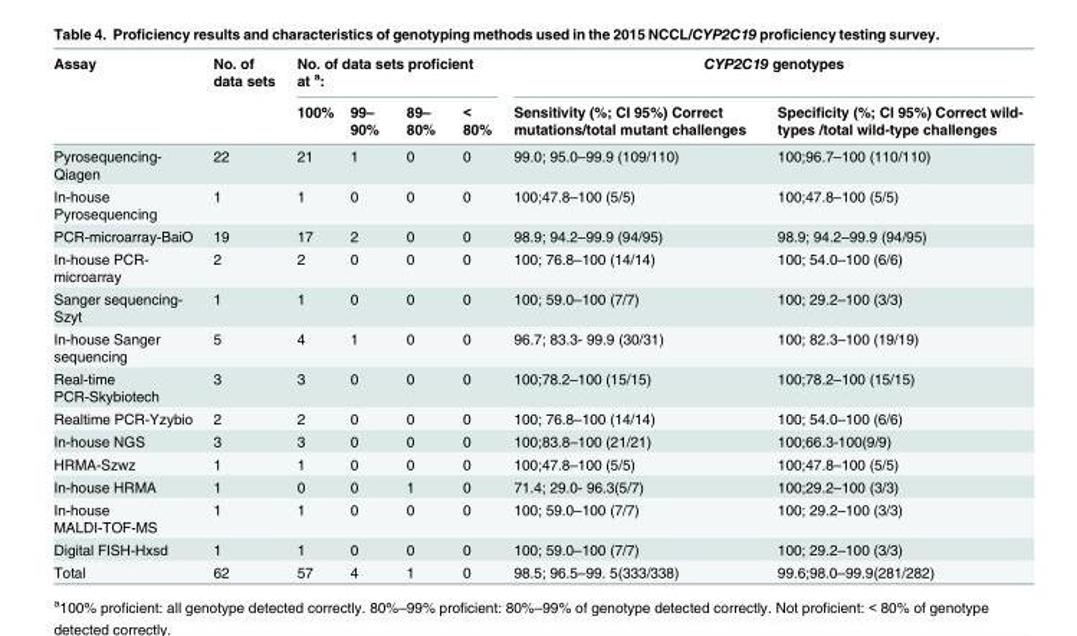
<table><thead><tr><td rowspan="2">Assay</td><td rowspan="2">No. of data sets</td><td colspan="4">No. of data sets proficient at <sup>a</sup>:</td><td colspan="2">CYP2C19 genotypes</td></tr><tr><td>100%</td><td>99– 90%</td><td>89– 80%</td><td>&lt; 80%</td><td>Sensitivity (%; CI 95%) Correct mutations/total mutant challenges</td><td>Specificity (%; CI 95%) Correct wild- types /total wild-type challenges</td></tr></thead><tbody><tr><td>Pyrosequencing- Qiagen</td><td>22</td><td>21</td><td>1</td><td>0</td><td>0</td><td>99.0; 95.0–99.9 (109/110)</td><td>100;96.7–100 (110/110)</td></tr><tr><td>In-house Pyrosequencing</td><td>1</td><td>1</td><td>0</td><td>0</td><td>0</td><td>100;47.8–100 (5/5)</td><td>100;47.8–100 (5/5)</td></tr><tr><td>PCR-microarray-BaiO</td><td>19</td><td>17</td><td>2</td><td>0</td><td>0</td><td>98.9; 94.2–99.9 (94/95)</td><td>98.9; 94.2–99.9 (94/95)</td></tr><tr><td>In-house PCR- microarray</td><td>2</td><td>2</td><td>0</td><td>0</td><td>0</td><td>100; 76.8–100 (14/14)</td><td>100; 54.0–100 (6/6)</td></tr><tr><td>Sanger sequencing- Szyt</td><td>1</td><td>1</td><td>0</td><td>0</td><td>0</td><td>100; 59.0–100 (7/7)</td><td>100; 29.2–100 (3/3)</td></tr><tr><td>In-house Sanger sequencing</td><td>5</td><td>4</td><td>1</td><td>0</td><td>0</td><td>96.7; 83.3- 99.9 (30/31)</td><td>100; 82.3–100 (19/19)</td></tr><tr><td>Real-time PCR-Skybiotech</td><td>3</td><td>3</td><td>0</td><td>0</td><td>0</td><td>100;78.2–100 (15/15)</td><td>100;78.2–100 (15/15)</td></tr><tr><td>Realtime PCR-Yzybio</td><td>2</td><td>2</td><td>0</td><td>0</td><td>0</td><td>100; 76.8–100 (14/14)</td><td>100; 54.0–100 (6/6)</td></tr><tr><td>In-house NGS</td><td>3</td><td>3</td><td>0</td><td>0</td><td>0</td><td>100;83.8–100 (21/21)</td><td>100;66.3-100(9/9)</td></tr><tr><td>HRMA-Szwz</td><td>1</td><td>1</td><td>0</td><td>0</td><td>0</td><td>100;47.8–100 (5/5)</td><td>100;47.8–100 (5/5)</td></tr><tr><td>In-house HRMA</td><td>1</td><td>0</td><td>0</td><td>1</td><td>0</td><td>71.4; 29.0- 96.3(5/7)</td><td>100;29.2–100 (3/3)</td></tr><tr><td>In-house MALDI-TOF-MS</td><td>1</td><td>1</td><td>0</td><td>0</td><td>0</td><td>100; 59.0–100 (7/7)</td><td>100; 29.2–100 (3/3)</td></tr><tr><td>Digital FISH-Hxsd</td><td>1</td><td>1</td><td>0</td><td>0</td><td>0</td><td>100; 59.0–100 (7/7)</td><td>100; 29.2–100 (3/3)</td></tr><tr><td>Total</td><td>62</td><td>57</td><td>4</td><td>1</td><td>0</td><td>98.5; 96.5–99. 5(333/338)</td><td>99.6;98.0–99.9(281/282)</td></tr></tbody></table>